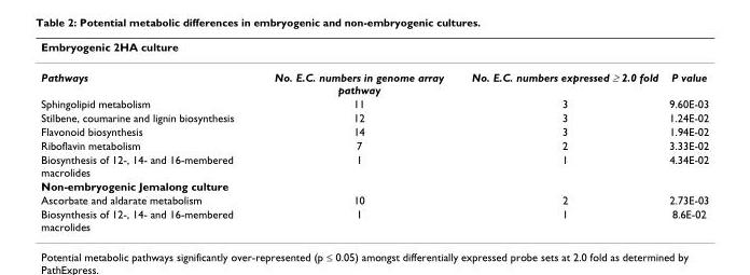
<table><thead><tr><td>Embryogenic 2HA culture</td><td></td><td></td><td></td></tr></thead><tbody><tr><td>Pathways</td><td>No. E.C. numbers in genome array pathway</td><td>No. E.C. numbers expressed ≥ 2.0 fold</td><td>P value</td></tr><tr><td>Sphingolipid metabolism</td><td>11</td><td>3</td><td>9.60E-03</td></tr><tr><td>Stilbene, coumarine and lignin biosynthesis</td><td>12</td><td>3</td><td>1.24E-02</td></tr><tr><td>Flavonoid biosynthesis</td><td>14</td><td>3</td><td>1.94E-02</td></tr><tr><td>Riboflavin metabolism</td><td>7</td><td>2</td><td>3.33E-02</td></tr><tr><td>Biosynthesis of 12-, 14- and 16-membered macrolides</td><td>1</td><td>1</td><td>4.34E-02</td></tr><tr><td colspan="4">Non-embryogenic Jemalong culture</td></tr><tr><td>Ascorbate and aldarate metabolism</td><td>10</td><td>2</td><td>2.73E-03</td></tr><tr><td>Biosynthesis of 12-, 14- and 16-membered macrolides</td><td>1</td><td>1</td><td>8.6E-02</td></tr></tbody></table>